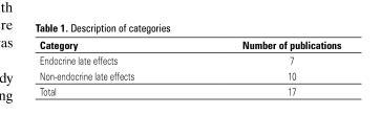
<table><thead><tr><td>Category</td><td>Number of publications</td></tr></thead><tbody><tr><td>Endocrine late effects</td><td>7</td></tr><tr><td>Non-endocrine late effects</td><td>10</td></tr><tr><td>Total</td><td>17</td></tr></tbody></table>